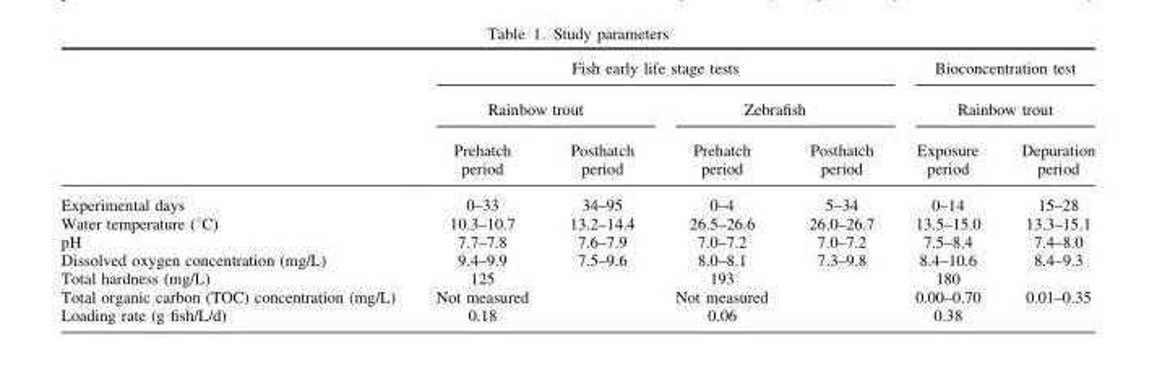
<table><thead><tr><td rowspan="3"></td><td colspan="4">Fish early life stage tests</td><td rowspan="2" colspan="2">Bioconcentration test Rainbow trout</td></tr><tr><td colspan="2">Rainbow trout</td><td colspan="2">Zebrafish</td></tr><tr><td>Prehatch period</td><td>Posthatch period</td><td>Prehatch period</td><td>Posthatch period</td><td>Exposure period</td><td>Depuration period</td></tr></thead><tbody><tr><td>Experimental days</td><td>0–33</td><td>34–95</td><td>0–4</td><td>5–34</td><td>0–14</td><td>15–28</td></tr><tr><td>Water temperature (°C)</td><td>10.3–10.7</td><td>13.2–14.4</td><td>26.5–26.6</td><td>26.0–26.7</td><td>13.5–15.0</td><td>13.3–15.1</td></tr><tr><td>pH</td><td>7.7–7.8</td><td>7.6–7.9</td><td>7.0–7.2</td><td>7.0–7.2</td><td>7.5–8.4</td><td>7.4–8.0</td></tr><tr><td>Dissolved oxygen concentration (mg/L)</td><td>9.4–9.9</td><td>7.5–9.6</td><td>8.0–8.1</td><td>7.3–9.8</td><td>8.4–10.6</td><td>8.4–9.3</td></tr><tr><td>Total hardness (mg/L)</td><td>125</td><td></td><td>193</td><td></td><td>180</td><td></td></tr><tr><td>Total organic carbon (TOC) concentration (mg/L)</td><td>Not measured</td><td></td><td>Not measured</td><td></td><td>0.00–0.70</td><td>0.01–0.35</td></tr><tr><td>Loading rate (g fish/L/d)</td><td>0.18</td><td></td><td>0.06</td><td></td><td>0.38</td><td></td></tr></tbody></table>